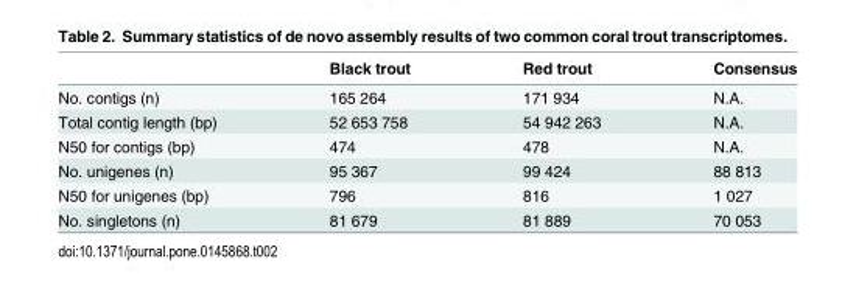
<table><thead><tr><td></td><td>Black trout</td><td>Red trout</td><td>Consensus</td></tr></thead><tbody><tr><td>No. contigs (n)</td><td>165 264</td><td>171 934</td><td>N.A.</td></tr><tr><td>Total contig length (bp)</td><td>52 653 758</td><td>54 942 263</td><td>N.A.</td></tr><tr><td>N50 for contigs (bp)</td><td>474</td><td>478</td><td>N.A.</td></tr><tr><td>No. unigenes (n)</td><td>95 367</td><td>99 424</td><td>88 813</td></tr><tr><td>N50 for unigenes (bp)</td><td>796</td><td>816</td><td>1 027</td></tr><tr><td>No. singletons (n)</td><td>81 679</td><td>81 889</td><td>70 053</td></tr></tbody></table>